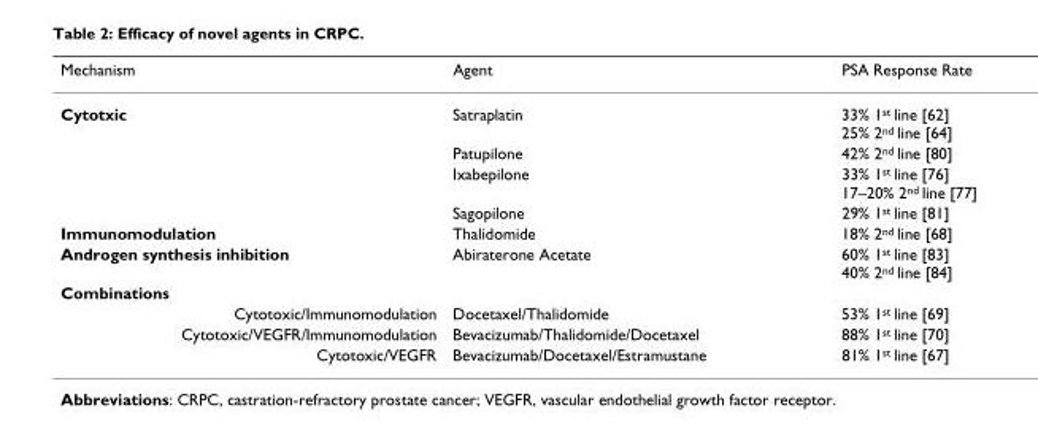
<table><thead><tr><td>Mechanism</td><td>Agent</td><td>PSA Response Rate</td></tr></thead><tbody><tr><td rowspan="4">Cytotxic</td><td>Satraplatin</td><td>33% 1<sup>st</sup> line [62] 25% 2<sup>nd</sup> line [64]</td></tr><tr><td>Patupilone</td><td>42% 2<sup>nd</sup> line [80]</td></tr><tr><td>Ixabepilone</td><td>33% 1<sup>st</sup> line [76] 17–20% 2<sup>nd</sup> line [77]</td></tr><tr><td>Sagopilone</td><td>29% 1<sup>st</sup> line [81]</td></tr><tr><td>Immunomodulation</td><td>Thalidomide</td><td>18% 2<sup>nd</sup> line [68]</td></tr><tr><td>Androgen synthesis inhibition</td><td>Abiraterone Acetate</td><td>60% 1<sup>st</sup> line [83] 40% 2<sup>nd</sup> line [84]</td></tr><tr><td colspan="3">Combinations</td></tr><tr><td>Cytotoxic/Immunomodulation</td><td>Docetaxel/Thalidomide</td><td>53% 1<sup>st</sup> line [69]</td></tr><tr><td>Cytotoxic/VEGFR/Immunomodulation</td><td>Bevacizumab/Thalidomide/Docetaxel</td><td>88% 1<sup>st</sup> line [70]</td></tr><tr><td>Cytotoxic/VEGFR</td><td>Bevacizumab/Docetaxel/Estramustane</td><td>81% 1<sup>st</sup> line [67]</td></tr></tbody></table>